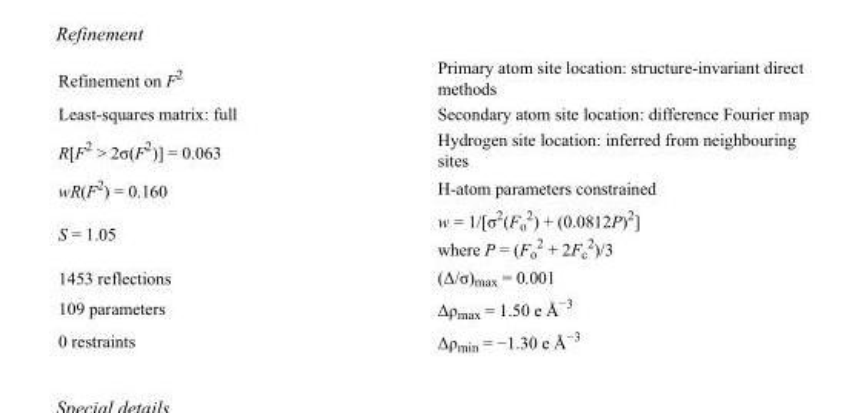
<table><tbody><tr><td>Refinement on F<sup>2</sup></td><td>Primary atom site location: structure-invariant direct methods</td></tr><tr><td>Least-squares matrix: full</td><td>Secondary atom site location: difference Fourier map</td></tr><tr><td>R[F<sup>2</sup> &gt; 2σ(F<sup>2</sup>)] = 0.063</td><td>Hydrogen site location: inferred from neighbouring sites</td></tr><tr><td>wR(F<sup>2</sup>) = 0.160</td><td>H-atom parameters constrained</td></tr><tr><td>S = 1.05</td><td>w = 1/[σ<sup>2</sup>(F<sub>o</sub> <sup>2</sup>) + (0.0812P)<sup>2</sup>] where P = (F<sub>o</sub> <sup>2</sup> + 2F<sub>c</sub> <sup>2</sup>)/3</td></tr><tr><td>1453 reflections</td><td>(Δ/σ)<sub>max</sub> = 0.001</td></tr><tr><td>109 parameters</td><td>Δρ<sub>max</sub> = 1.50 e Å<sup>−3</sup></td></tr><tr><td>0 restraints</td><td>Δρ<sub>min</sub> = −1.30 e Å<sup>−3</sup></td></tr></tbody></table>